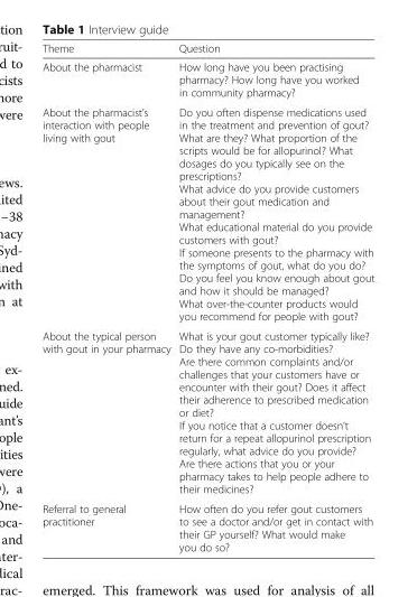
<table><thead><tr><td>Theme</td><td>Question</td></tr></thead><tbody><tr><td>About the pharmacist</td><td>How long have you been practising pharmacy? How long have you worked in community pharmacy?</td></tr><tr><td>About the pharmacist’s interaction with people living with gout</td><td>Do you often dispense medications used in the treatment and prevention of gout? What are they? What proportion of the scripts would be for allopurinol? What dosages do you typically see on the prescriptions? What advice do you provide customers about their gout medication and management? What educational material do you provide customers with gout? If someone presents to the pharmacy with the symptoms of gout, what do you do? Do you feel you know enough about gout and how it should be managed? What over-the-counter products would you recommend for people with gout?</td></tr><tr><td>About the typical person with gout in your pharmacy</td><td>What is your gout customer typically like? Do they have any co-morbidities? Are there common complaints and/or challenges that your customers have or encounter with their gout? Does it affect their adherence to prescribed medication or diet? If you notice that a customer doesn’t return for a repeat allopurinol prescription regularly, what advice do you provide? Are there actions that you or your pharmacy takes to help people adhere to their medicines?</td></tr><tr><td>Referral to general practitioner</td><td>How often do you refer gout customers to see a doctor and/or get in contact with their GP yourself? What would make you do so?</td></tr></tbody></table>